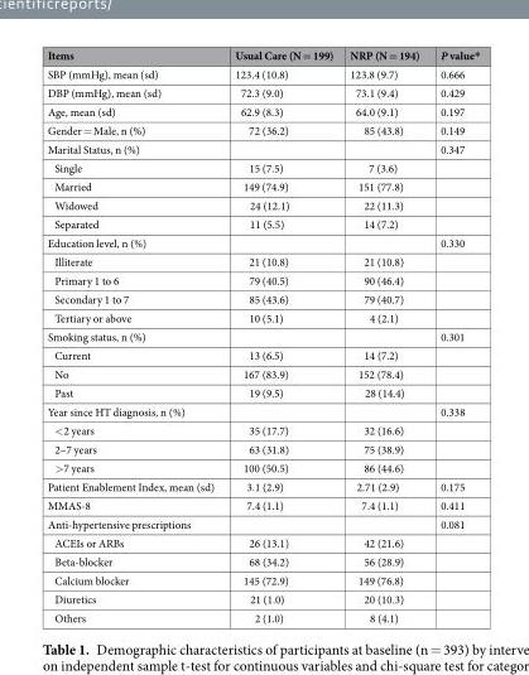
<table><thead><tr><td>Items</td><td>Usual Care (N = 199)</td><td>NRP (N = 194)</td><td>P value*</td></tr></thead><tbody><tr><td>SBP (mmHg), mean (sd)</td><td>123.4 (10.8)</td><td>123.8 (9.7)</td><td>0.666</td></tr><tr><td>DBP (mmHg), mean (sd)</td><td>72.3 (9.0)</td><td>73.1 (9.4)</td><td>0.429</td></tr><tr><td>Age, mean (sd)</td><td>62.9 (8.3)</td><td>64.0 (9.1)</td><td>0.197</td></tr><tr><td>Gender = Male, n (%)</td><td>72 (36.2)</td><td>85 (43.8)</td><td>0.149</td></tr><tr><td>Marital Status, n (%)</td><td></td><td></td><td>0.347</td></tr><tr><td>Single</td><td>15 (7.5)</td><td>7 (3.6)</td><td></td></tr><tr><td>Married</td><td>149 (74.9)</td><td>151 (77.8)</td><td></td></tr><tr><td>Widowed</td><td>24 (12.1)</td><td>22 (11.3)</td><td></td></tr><tr><td>Separated</td><td>11 (5.5)</td><td>14 (7.2)</td><td></td></tr><tr><td>Education level, n (%)</td><td></td><td></td><td>0.330</td></tr><tr><td>Illiterate</td><td>21 (10.8)</td><td>21 (10.8)</td><td></td></tr><tr><td>Primary 1 to 6</td><td>79 (40.5)</td><td>90 (46.4)</td><td></td></tr><tr><td>Secondary 1 to 7</td><td>85 (43.6)</td><td>79 (40.7)</td><td></td></tr><tr><td>Tertiary or above</td><td>10 (5.1)</td><td>4 (2.1)</td><td></td></tr><tr><td>Smoking status, n (%)</td><td></td><td></td><td>0.301</td></tr><tr><td>Current</td><td>13 (6.5)</td><td>14 (7.2)</td><td></td></tr><tr><td>No</td><td>167 (83.9)</td><td>152 (78.4)</td><td></td></tr><tr><td>Past</td><td>19 (9.5)</td><td>28 (14.4)</td><td></td></tr><tr><td>Year since HT diagnosis, n (%)</td><td></td><td></td><td>0.338</td></tr><tr><td>&lt;2 years</td><td>35 (17.7)</td><td>32 (16.6)</td><td></td></tr><tr><td>2–7 years</td><td>63 (31.8)</td><td>75 (38.9)</td><td></td></tr><tr><td>&gt;7 years</td><td>100 (50.5)</td><td>86 (44.6)</td><td></td></tr><tr><td>Patient Enablement Index, mean (sd)</td><td>3.1 (2.9)</td><td>2.71 (2.9)</td><td>0.175</td></tr><tr><td>MMAS-8</td><td>7.4 (1.1)</td><td>7.4 (1.1)</td><td>0.411</td></tr><tr><td>Anti-hypertensive prescriptions</td><td></td><td></td><td>0.081</td></tr><tr><td>ACEIs or ARBs</td><td>26 (13.1)</td><td>42 (21.6)</td><td></td></tr><tr><td>Beta-blocker</td><td>68 (34.2)</td><td>56 (28.9)</td><td></td></tr><tr><td>Calcium blocker</td><td>145 (72.9)</td><td>149 (76.8)</td><td></td></tr><tr><td>Diuretics</td><td>21 (1.0)</td><td>20 (10.3)</td><td></td></tr><tr><td>Others</td><td>2 (1.0)</td><td>8 (4.1)</td><td></td></tr></tbody></table>